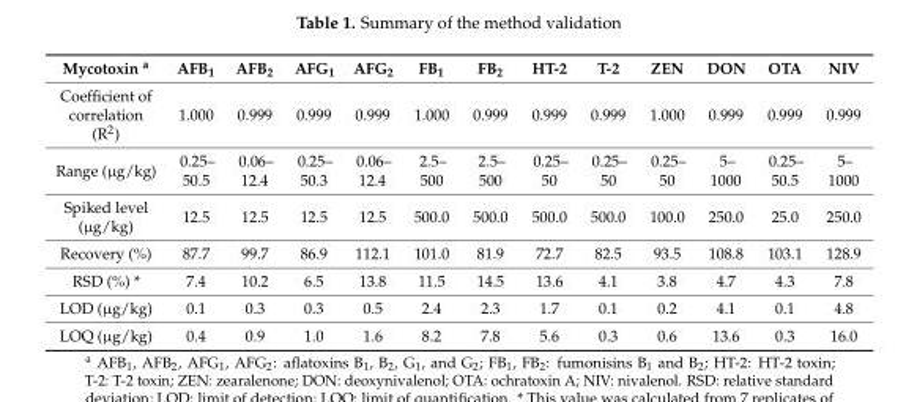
<table><thead><tr><td>Mycotoxin <sup>a</sup></td><td>AFB<sub>1</sub></td><td>AFB<sub>2</sub></td><td>AFG<sub>1</sub></td><td>AFG<sub>2</sub></td><td>FB<sub>1</sub></td><td>FB<sub>2</sub></td><td>HT-2</td><td>T-2</td><td>ZEN</td><td>DON</td><td>OTA</td><td>NIV</td></tr></thead><tbody><tr><td>Coefficient of correlation (R<sup>2</sup>)</td><td>1.000</td><td>0.999</td><td>0.999</td><td>0.999</td><td>1.000</td><td>0.999</td><td>0.999</td><td>0.999</td><td>1.000</td><td>0.999</td><td>0.999</td><td>0.999</td></tr><tr><td>Range (µg/kg)</td><td>0.25– 50.5</td><td>0.06– 12.4</td><td>0.25– 50.3</td><td>0.06– 12.4</td><td>2.5– 500</td><td>2.5– 500</td><td>0.25– 50</td><td>0.25– 50</td><td>0.25– 50</td><td>5– 1000</td><td>0.25– 50.5</td><td>5– 1000</td></tr><tr><td>Spiked level (µg/kg)</td><td>12.5</td><td>12.5</td><td>12.5</td><td>12.5</td><td>500.0</td><td>500.0</td><td>500.0</td><td>500.0</td><td>100.0</td><td>250.0</td><td>25.0</td><td>250.0</td></tr><tr><td>Recovery (%)</td><td>87.7</td><td>99.7</td><td>86.9</td><td>112.1</td><td>101.0</td><td>81.9</td><td>72.7</td><td>82.5</td><td>93.5</td><td>108.8</td><td>103.1</td><td>128.9</td></tr><tr><td>RSD (%) *</td><td>7.4</td><td>10.2</td><td>6.5</td><td>13.8</td><td>11.5</td><td>14.5</td><td>13.6</td><td>4.1</td><td>3.8</td><td>4.7</td><td>4.3</td><td>7.8</td></tr><tr><td>LOD (µg/kg)</td><td>0.1</td><td>0.3</td><td>0.3</td><td>0.5</td><td>2.4</td><td>2.3</td><td>1.7</td><td>0.1</td><td>0.2</td><td>4.1</td><td>0.1</td><td>4.8</td></tr><tr><td>LOQ (µg/kg)</td><td>0.4</td><td>0.9</td><td>1.0</td><td>1.6</td><td>8.2</td><td>7.8</td><td>5.6</td><td>0.3</td><td>0.6</td><td>13.6</td><td>0.3</td><td>16.0</td></tr></tbody></table>